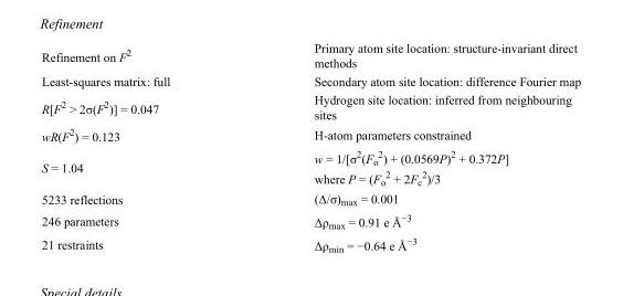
<table><tbody><tr><td>Refinement on F<sup>2</sup></td><td>Primary atom site location: structure-invariant direct methods</td></tr><tr><td>Least-squares matrix: full</td><td>Secondary atom site location: difference Fourier map</td></tr><tr><td>R[F<sup>2</sup> &gt; 2σ(F<sup>2</sup>)] = 0.047</td><td>Hydrogen site location: inferred from neighbouring sites</td></tr><tr><td>wR(F<sup>2</sup>) = 0.123</td><td>H-atom parameters constrained</td></tr><tr><td>S = 1.04</td><td>w = 1/[σ<sup>2</sup>(F<sub>o</sub> <sup>2</sup>) + (0.0569P)<sup>2</sup> + 0.372P] where P = (F<sub>o</sub> <sup>2</sup> + 2F<sub>c</sub> <sup>2</sup>)/3</td></tr><tr><td>5233 reflections</td><td>(Δ/σ)<sub>max</sub> = 0.001</td></tr><tr><td>246 parameters</td><td>Δρ<sub>max</sub> = 0.91 e Å<sup>−3</sup></td></tr><tr><td>21 restraints</td><td>Δρ<sub>min</sub> = −0.64 e Å<sup>−3</sup></td></tr></tbody></table>